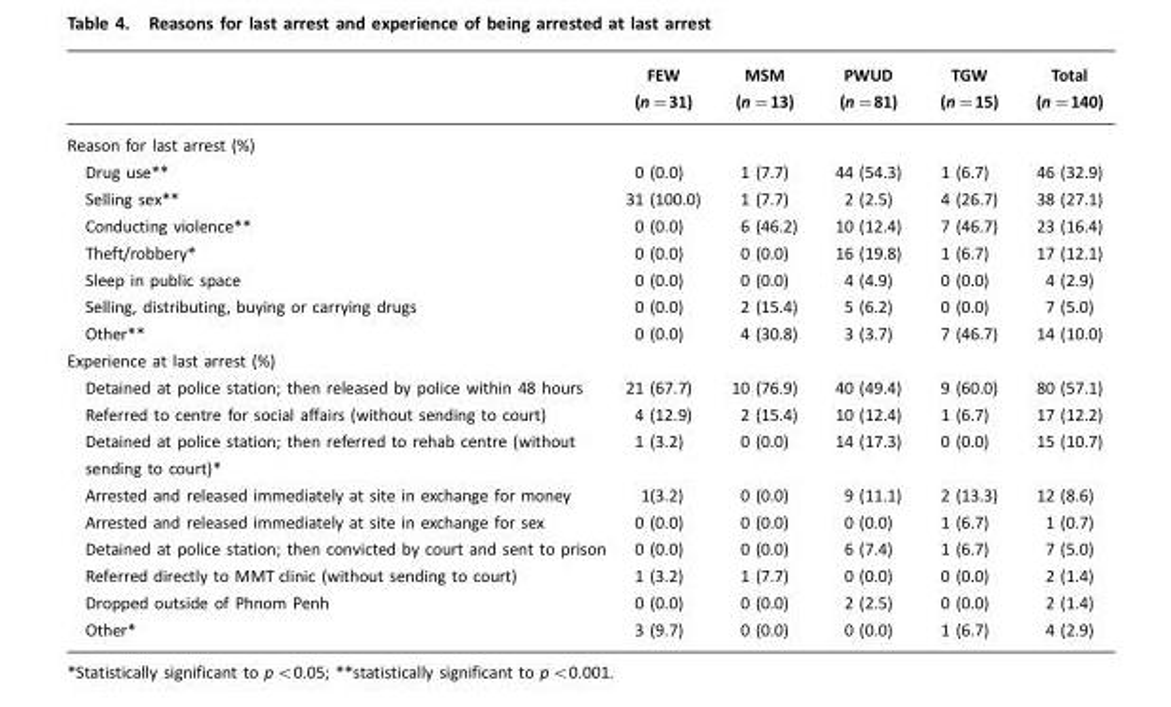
<table><thead><tr><td></td><td>FEW (n=31)</td><td>MSM (n=13)</td><td>PWUD (n=81)</td><td>TGW (n=15)</td><td>Total (n=140)</td></tr></thead><tbody><tr><td colspan="6">Reason for last arrest (%)</td></tr><tr><td>Drug use**</td><td>0 (0.0)</td><td>1 (7.7)</td><td>44 (54.3)</td><td>1 (6.7)</td><td>46 (32.9)</td></tr><tr><td>Selling sex**</td><td>31 (100.0)</td><td>1 (7.7)</td><td>2 (2.5)</td><td>4 (26.7)</td><td>38 (27.1)</td></tr><tr><td>Conducting violence**</td><td>0 (0.0)</td><td>6 (46.2)</td><td>10 (12.4)</td><td>7 (46.7)</td><td>23 (16.4)</td></tr><tr><td>Theft/robbery*</td><td>0 (0.0)</td><td>0 (0.0)</td><td>16 (19.8)</td><td>1 (6.7)</td><td>17 (12.1)</td></tr><tr><td>Sleep in public space</td><td>0 (0.0)</td><td>0 (0.0)</td><td>4 (4.9)</td><td>0 (0.0)</td><td>4 (2.9)</td></tr><tr><td>Selling, distributing, buying or carrying drugs</td><td>0 (0.0)</td><td>2 (15.4)</td><td>5 (6.2)</td><td>0 (0.0)</td><td>7 (5.0)</td></tr><tr><td>Other**</td><td>0 (0.0)</td><td>4 (30.8)</td><td>3 (3.7)</td><td>7 (46.7)</td><td>14 (10.0)</td></tr><tr><td colspan="6">Experience at last arrest (%)</td></tr><tr><td>Detained at police station; then released by police within 48 hours</td><td>21 (67.7)</td><td>10 (76.9)</td><td>40 (49.4)</td><td>9 (60.0)</td><td>80 (57.1)</td></tr><tr><td>Referred to centre for social affairs (without sending to court)</td><td>4 (12.9)</td><td>2 (15.4)</td><td>10 (12.4)</td><td>1 (6.7)</td><td>17 (12.2)</td></tr><tr><td>Detained at police station; then referred to rehab centre (without sending to court)*</td><td>1 (3.2)</td><td>0 (0.0)</td><td>14 (17.3)</td><td>0 (0.0)</td><td>15 (10.7)</td></tr><tr><td>Arrested and released immediately at site in exchange for money</td><td>1(3.2)</td><td>0 (0.0)</td><td>9 (11.1)</td><td>2 (13.3)</td><td>12 (8.6)</td></tr><tr><td>Arrested and released immediately at site in exchange for sex</td><td>0 (0.0)</td><td>0 (0.0)</td><td>0 (0.0)</td><td>1 (6.7)</td><td>1 (0.7)</td></tr><tr><td>Detained at police station; then convicted by court and sent to prison</td><td>0 (0.0)</td><td>0 (0.0)</td><td>6 (7.4)</td><td>1 (6.7)</td><td>7 (5.0)</td></tr><tr><td>Referred directly to MMT clinic (without sending to court)</td><td>1 (3.2)</td><td>1 (7.7)</td><td>0 (0.0)</td><td>0 (0.0)</td><td>2 (1.4)</td></tr><tr><td>Dropped outside of Phnom Penh</td><td>0 (0.0)</td><td>0 (0.0)</td><td>2 (2.5)</td><td>0 (0.0)</td><td>2 (1.4)</td></tr><tr><td>Other*</td><td>3 (9.7)</td><td>0 (0.0)</td><td>0 (0.0)</td><td>1 (6.7)</td><td>4 (2.9)</td></tr></tbody></table>